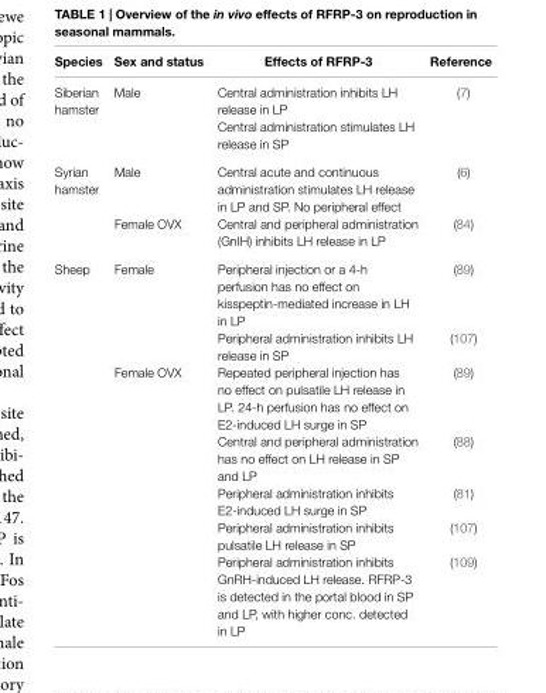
<table><thead><tr><td>Species</td><td>Sex and status</td><td>effects of RFRP-3</td><td>Reference</td></tr></thead><tbody><tr><td rowspan="2">Siberian hamster</td><td rowspan="2">Male</td><td>Central administration inhibits LH release in LP</td><td rowspan="2">(7)</td></tr><tr><td>Central administration stimulates LH release in SP</td></tr><tr><td rowspan="2">Syrian hamster</td><td>Male</td><td>Central acute and continuous administration stimulates LH release in LP and SP. No peripheral effect</td><td>(6)</td></tr><tr><td>Female OVX</td><td>Central and peripheral administration (GnIH) inhibits LH release in LP</td><td>(84)</td></tr><tr><td rowspan="7">Sheep</td><td rowspan="2">Female</td><td>Peripheral injection or a 4-h perfusion has no effect on kisspeptin-mediated increase in LH in LP</td><td>(89)</td></tr><tr><td>Peripheral administration inhibits LH release in SP</td><td>(107)</td></tr><tr><td rowspan="5">Female OVX</td><td>Repeated peripheral injection has no effect on pulsatile LH release in LP. 24-h perfusion has no effect on E2-induced LH surge in SP</td><td>(89)</td></tr><tr><td>Central and peripheral administration has no effect on LH release in SP and LP</td><td>(88)</td></tr><tr><td>Peripheral administration inhibits E2-induced LH surge in SP</td><td>(81)</td></tr><tr><td>Peripheral administration inhibits pulsatile LH release in SP</td><td>(107)</td></tr><tr><td>Peripheral administration inhibits GnRH-induced LH release. RFRP-3 is detected in the portal blood in SP and LP, with higher conc. detected in LP</td><td>(109)</td></tr></tbody></table>